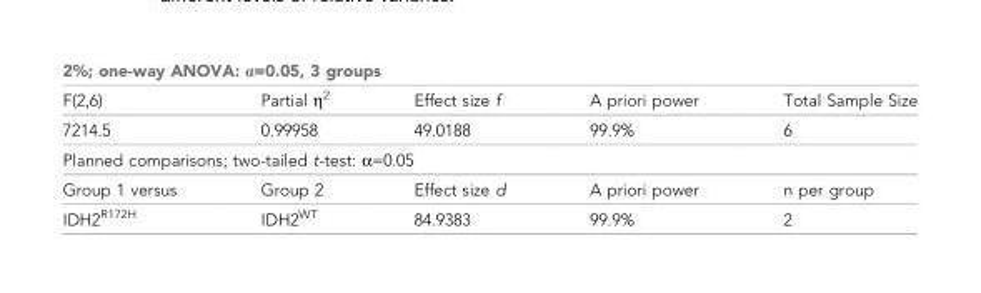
<table><thead><tr><td colspan="5">2%; one-way ANOVA: α=0.05, 3 groups</td></tr><tr><td>F(2,6)</td><td>Partial η<sup>2</sup></td><td>Effect size f</td><td>A priori power</td><td>Total Sample Size</td></tr></thead><tbody><tr><td>7214.5</td><td>0.99958</td><td>49.0188</td><td>99.9%</td><td>6</td></tr><tr><td colspan="5">Planned comparisons; two-tailed t-test: α=0.05</td></tr><tr><td>Group 1 versus</td><td>Group 2</td><td>Effect size d</td><td>A priori power</td><td>n per group</td></tr><tr><td>IDH2<sup>R172H</sup></td><td>IDH2<sup>WT</sup></td><td>84.9383</td><td>99.9%</td><td>2</td></tr></tbody></table>